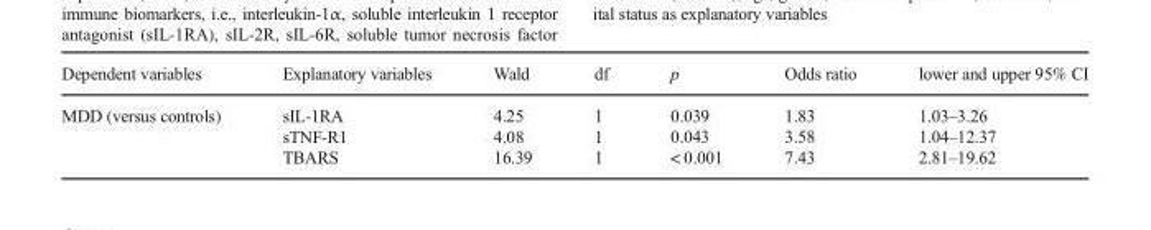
<table><thead><tr><td>Dependent variables</td><td>Explanatory variables</td><td>Wald</td><td>df</td><td>p</td><td>Odds ratio</td><td>lower and upper 95% CI</td></tr></thead><tbody><tr><td>MDD (versus controls)</td><td>sIL-1RA sTNF-R1 TBARS</td><td>4.25 4.08 16.39</td><td>1 1 1</td><td>0.039 0.043 &lt; 0.001</td><td>1.83 3.58 7.43</td><td>1.03–3.26 1.04–12.37 2.81–19.62</td></tr></tbody></table>